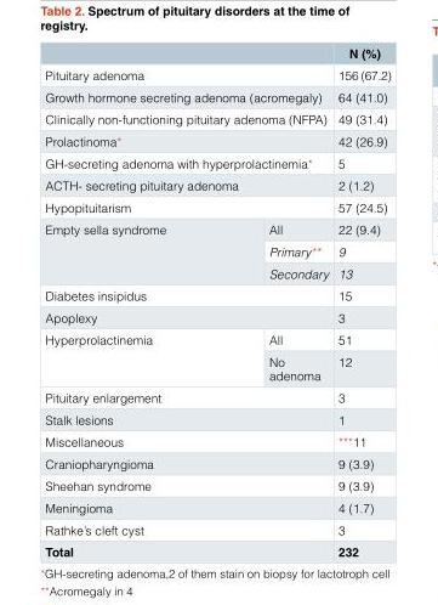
<table><thead><tr><td></td><td></td><td>N (%)</td></tr></thead><tbody><tr><td colspan="2">Pituitary adenoma</td><td>156 (67.2)</td></tr><tr><td colspan="2">Growth hormone secreting adenoma (acromegaly)</td><td>64 (41.0)</td></tr><tr><td colspan="2">Clinically non-functioning pituitary adenoma (NFPA)</td><td>49 (31.4)</td></tr><tr><td colspan="2">Prolactinoma*</td><td>42 (26.9)</td></tr><tr><td colspan="2">GH-secreting adenoma with hyperprolactinemia*</td><td>5</td></tr><tr><td colspan="2">ACTH- secreting pituitary adenoma</td><td>2 (1.2)</td></tr><tr><td colspan="2">Hypopituitarism</td><td>57 (24.5)</td></tr><tr><td rowspan="3">Empty sella syndrome</td><td>All</td><td>22 (9.4)</td></tr><tr><td>Primary**</td><td>9</td></tr><tr><td>Secondary</td><td>13</td></tr><tr><td colspan="2">Diabetes insipidus</td><td>15</td></tr><tr><td colspan="2">Apoplexy</td><td>3</td></tr><tr><td rowspan="2">Hyperprolactinemia</td><td>All</td><td>51</td></tr><tr><td>No adenoma</td><td>12</td></tr><tr><td colspan="2">Pituitary enlargement</td><td>3</td></tr><tr><td colspan="2">Stalk lesions</td><td>1</td></tr><tr><td colspan="2">Miscellaneous</td><td>***11</td></tr><tr><td colspan="2">Craniopharyngioma</td><td>9 (3.9)</td></tr><tr><td colspan="2">Sheehan syndrome</td><td>9 (3.9)</td></tr><tr><td colspan="2">Meningioma</td><td>4 (1.7)</td></tr><tr><td colspan="2">Rathke’s cleft cyst</td><td>3</td></tr><tr><td colspan="2">Total</td><td>232</td></tr></tbody></table>